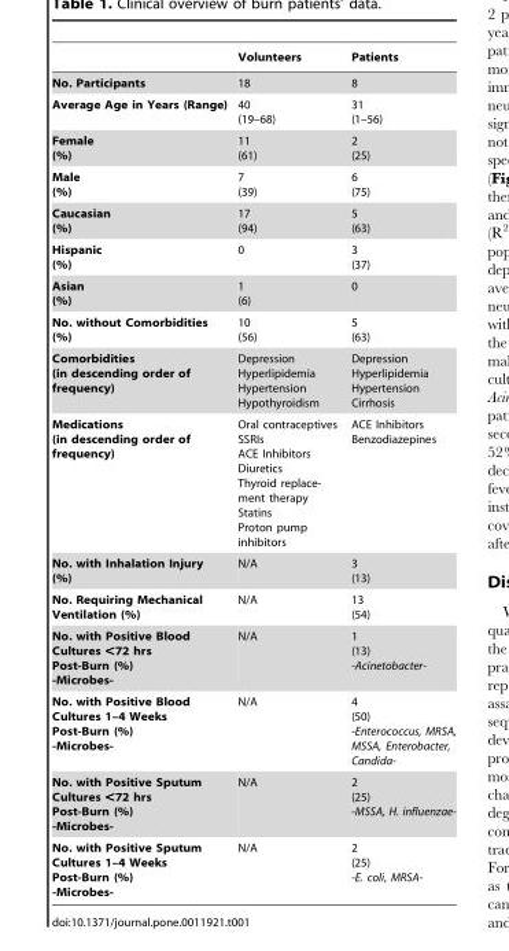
<table><thead><tr><td></td><td>Volunteers</td><td>Patients</td></tr></thead><tbody><tr><td>No. Participants</td><td>18</td><td>8</td></tr><tr><td>Average Age in Years (Range)</td><td>40 (19–68)</td><td>31 (1–56)</td></tr><tr><td>Female (%)</td><td>11 (61)</td><td>2 (25)</td></tr><tr><td>Male (%)</td><td>7 (39)</td><td>6 (75)</td></tr><tr><td>Caucasian (%)</td><td>17 (94)</td><td>5 (63)</td></tr><tr><td>Hispanic (%)</td><td>0</td><td>3 (37)</td></tr><tr><td>Asian (%)</td><td>1 (6)</td><td>0</td></tr><tr><td>No. without Comorbidities (%)</td><td>10 (56)</td><td>5 (63)</td></tr><tr><td>Comorbidities (in descending order of frequency)</td><td>Depression Hyperlipidemia Hypertension Hypothyroidism</td><td>Depression Hyperlipidemia Hypertension Cirrhosis</td></tr><tr><td>Medications (in descending order of frequency)</td><td>Oral contraceptives SSRIs ACE Inhibitors Diuretics Thyroid replace- ment therapy Statins Proton pump inhibitors</td><td>ACE Inhibitors Benzodiazepines</td></tr><tr><td>No. with Inhalation Injury (%)</td><td>N/A</td><td>3 (13)</td></tr><tr><td>No. Requiring Mechanical Ventilation (%)</td><td>N/A</td><td>13 (54)</td></tr><tr><td>No. with Positive Blood Cultures &lt;72 hrs Post-Burn (%) -Microbes-</td><td>N/A</td><td>1 (13) -Acinetobacter-</td></tr><tr><td>No. with Positive Blood Cultures 1–4 Weeks Post-Burn (%) -Microbes-</td><td>N/A</td><td>4 (50) -Enterococcus, MRSA, MSSA, Enterobacter, Candida-</td></tr><tr><td>No. with Positive Sputum Cultures &lt;72 hrs Post-Burn (%) -Microbes-</td><td>N/A</td><td>2 (25) -MSSA, H. influenzae-</td></tr><tr><td>No. with Positive Sputum Cultures 1–4 Weeks Post-Burn (%) -Microbes-</td><td>N/A</td><td>2 (25) -E. coli, MRSA-</td></tr></tbody></table>